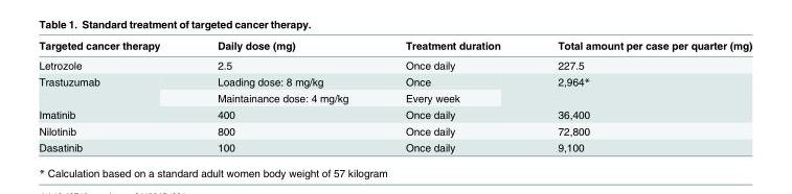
<table><thead><tr><td>Targeted cancer therapy</td><td>Daily dose (mg)</td><td>Treatment duration</td><td>Total amount per case per quarter (mg)</td></tr></thead><tbody><tr><td>Letrozole</td><td>2.5</td><td>Once daily</td><td>227.5</td></tr><tr><td rowspan="2">Trastuzumab</td><td>Loading dose: 8 mg/kg</td><td>Once</td><td rowspan="2">2,964*</td></tr><tr><td>Maintainance dose: 4 mg/kg</td><td>Every week</td></tr><tr><td>Imatinib</td><td>400</td><td>Once daily</td><td>36,400</td></tr><tr><td>Nilotinib</td><td>800</td><td>Once daily</td><td>72,800</td></tr><tr><td>Dasatinib</td><td>100</td><td>Once daily</td><td>9,100</td></tr></tbody></table>